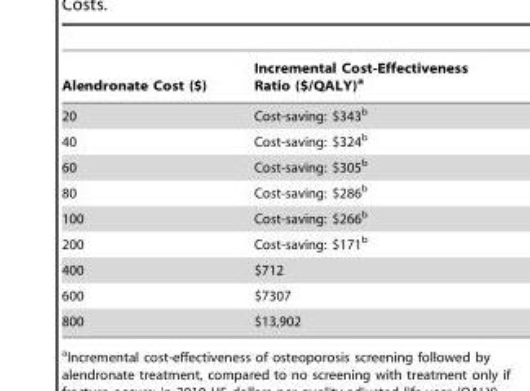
<table><thead><tr><td>Alendronate Cost ($)</td><td>Incremental Cost-Effectiveness Ratio ($/QALY)<sup>a</sup></td></tr></thead><tbody><tr><td>20</td><td>Cost-saving: $343<sup>b</sup></td></tr><tr><td>40</td><td>Cost-saving: $324<sup>b</sup></td></tr><tr><td>60</td><td>Cost-saving: $305<sup>b</sup></td></tr><tr><td>80</td><td>Cost-saving: $286<sup>b</sup></td></tr><tr><td>100</td><td>Cost-saving: $266<sup>b</sup></td></tr><tr><td>200</td><td>Cost-saving: $171<sup>b</sup></td></tr><tr><td>400</td><td>$712</td></tr><tr><td>600</td><td>$7307</td></tr><tr><td>800</td><td>$13,902</td></tr></tbody></table>